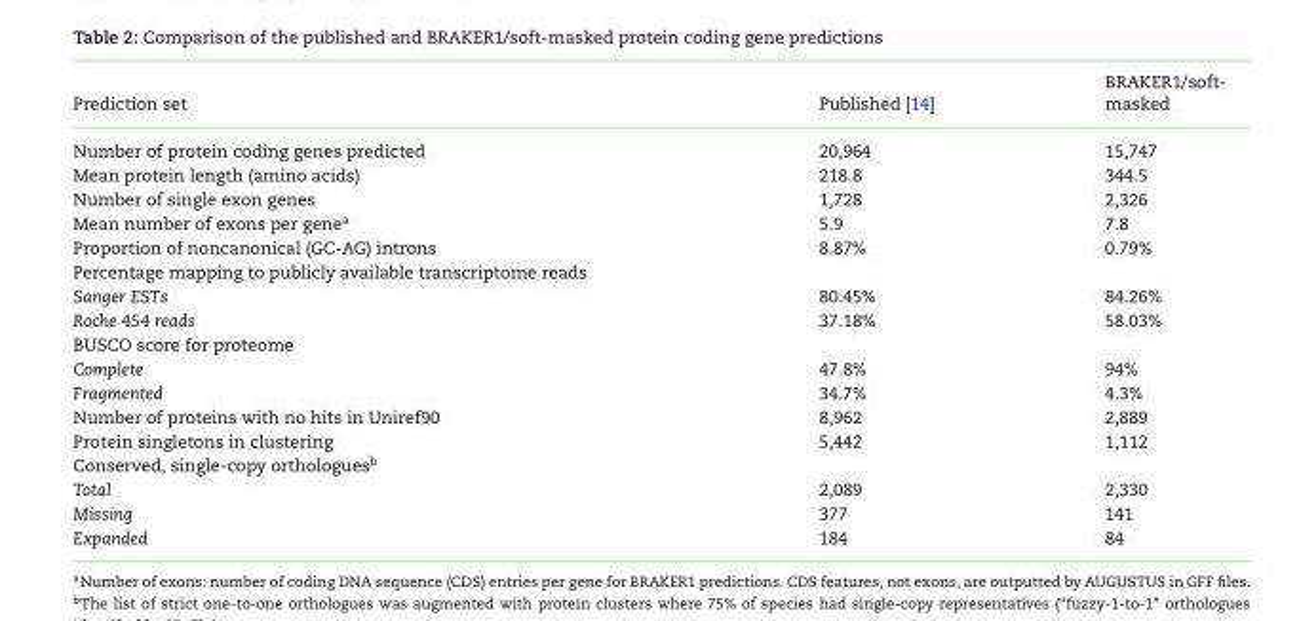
<table><thead><tr><td>Prediction set</td><td>Published [14]</td><td>BRAKER1/soft- masked</td></tr></thead><tbody><tr><td>Number of protein coding genes predicted</td><td>20,964</td><td>15,747</td></tr><tr><td>Mean protein length (amino acids)</td><td>218.8</td><td>344.5</td></tr><tr><td>Number of single exon genes</td><td>1,728</td><td>2,326</td></tr><tr><td>Mean number of exons per gene<sup>a</sup></td><td>5.9</td><td>7.8</td></tr><tr><td>Proportion of noncanonical (GC-AG) introns</td><td>8.87%</td><td>0.79%</td></tr><tr><td colspan="3">Percentage mapping to publicly available transcriptome reads</td></tr><tr><td>Sanger ESTs</td><td>80.45%</td><td>84.26%</td></tr><tr><td>Roche 454 reads</td><td>37.18%</td><td>58.03%</td></tr><tr><td colspan="3">BUSCO score for proteome</td></tr><tr><td>Complete</td><td>47.8%</td><td>94%</td></tr><tr><td>Fragmented</td><td>34.7%</td><td>4.3%</td></tr><tr><td>Number of proteins with no hits in Uniref90</td><td>8,962</td><td>2,889</td></tr><tr><td>Protein singletons in clustering</td><td>5,442</td><td>1,112</td></tr><tr><td colspan="3">Conserved, single-copy orthologues<sup>b</sup></td></tr><tr><td>Total</td><td>2,089</td><td>2,330</td></tr><tr><td>Missing</td><td>377</td><td>141</td></tr><tr><td>Expanded</td><td>184</td><td>84</td></tr></tbody></table>